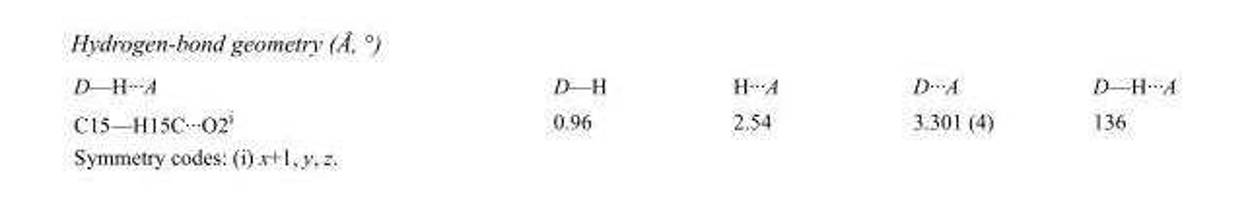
<table><tbody><tr><td>D—H···A</td><td>D—H</td><td>H···A</td><td>D···A</td><td>D—H···A</td></tr><tr><td>C15—H15C···O2<sup>i</sup></td><td>0.96</td><td>2.54</td><td>3.301 (4)</td><td>136</td></tr></tbody></table>